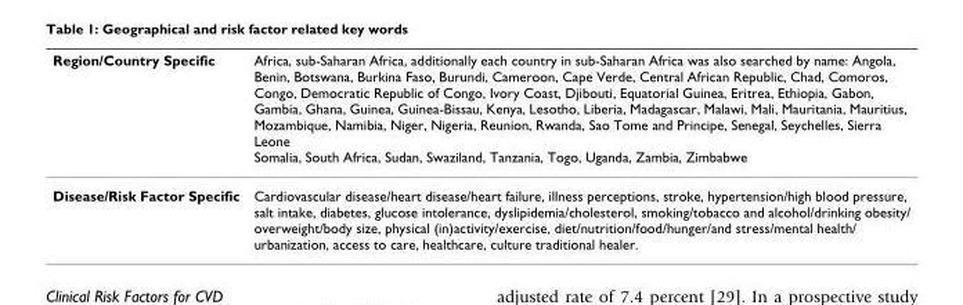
<table><thead><tr><td>Region/Country Specific</td><td>Africa, sub-Saharan Africa, additionally each country in sub-Saharan Africa was also searched by name: Angola, Benin, Botswana, Burkina Faso, Burundi, Cameroon, Cape Verde, Central African Republic, Chad, Comoros, Congo, Democratic Republic of Congo, Ivory Coast, Djibouti, Equatorial Guinea, Eritrea, Ethiopia, Gabon, Gambia, Ghana, Guinea, Guinea-Bissau, Kenya, Lesotho, Liberia, Madagascar, Malawi, Mali, Mauritania, Mauritius, Mozambique, Namibia, Niger, Nigeria, Reunion, Rwanda, Sao Tome and Principe, Senegal, Seychelles, Sierra Leone Somalia, South Africa, Sudan, Swaziland, Tanzania, Togo, Uganda, Zambia, Zimbabwe</td></tr></thead><tbody><tr><td>Disease/Risk Factor Specific</td><td>Cardiovascular disease/heart disease/heart failure, illness perceptions, stroke, hypertension/high blood pressure, salt intake, diabetes, glucose intolerance, dyslipidemia/cholesterol, smoking/tobacco and alcohol/drinking obesity/ overweight/body size, physical (in)activity/exercise, diet/nutrition/food/hunger/and stress/mental health/ urbanization, access to care, healthcare, culture traditional healer.</td></tr></tbody></table>